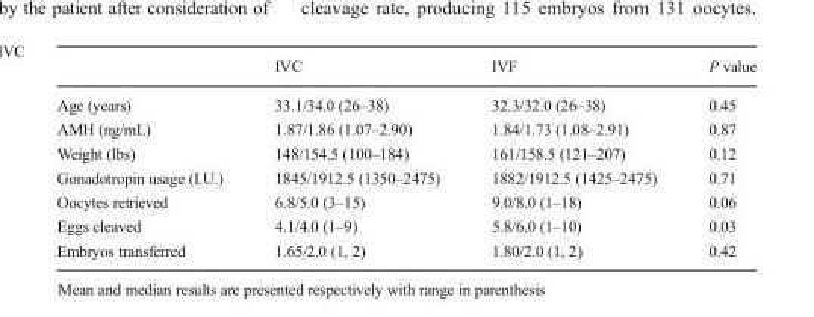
<table><thead><tr><td></td><td>IVC</td><td>IVF</td><td>P value</td></tr></thead><tbody><tr><td>Age (years)</td><td>33.1/34.0 (26–38)</td><td>32.3/32.0 (26–38)</td><td>0.45</td></tr><tr><td>AMH (ng/mL)</td><td>1.87/1.86 (1.07–2.90)</td><td>1.84/1.73 (1.08–2.91)</td><td>0.87</td></tr><tr><td>Weight (lbs)</td><td>148/154.5 (100–184)</td><td>161/158.5 (121–207)</td><td>0.12</td></tr><tr><td>Gonadotropin usage (I.U.)</td><td>1845/1912.5 (1350–2475)</td><td>1882/1912.5 (1425–2475)</td><td>0.71</td></tr><tr><td>Oocytes retrieved</td><td>6.8/5.0 (3–15)</td><td>9.0/8.0 (1–18)</td><td>0.06</td></tr><tr><td>Eggs cleaved</td><td>4.1/4.0 (1–9)</td><td>5.8/6.0 (1–10)</td><td>0.03</td></tr><tr><td>Embryos transferred</td><td>1.65/2.0 (1, 2)</td><td>1.80/2.0 (1, 2)</td><td>0.42</td></tr></tbody></table>